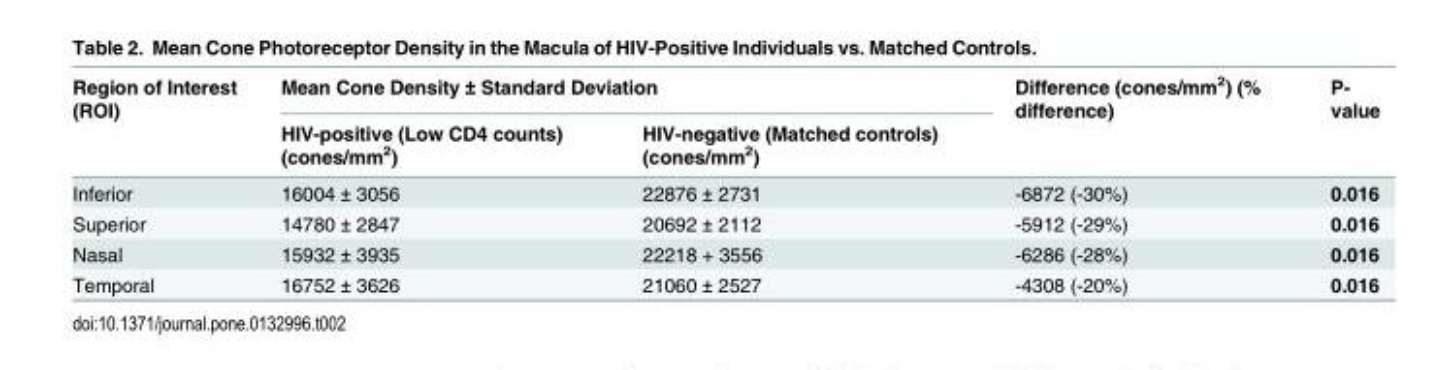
<table><thead><tr><td rowspan="2">Region of Interest (ROI)</td><td colspan="2">Mean Cone Density ± Standard Deviation</td><td rowspan="2">Difference (cones/mm<sup>2</sup>) (% difference)</td><td rowspan="2">P- value</td></tr><tr><td>HIV-positive (Low CD4 counts) (cones/mm<sup>2</sup>)</td><td>HIV-negative (Matched controls) (cones/mm<sup>2</sup>)</td></tr></thead><tbody><tr><td>Inferior</td><td>16004 ± 3056</td><td>22876 ± 2731</td><td>-6872 (-30%)</td><td>0.016</td></tr><tr><td>Superior</td><td>14780 ± 2847</td><td>20692 ± 2112</td><td>-5912 (-29%)</td><td>0.016</td></tr><tr><td>Nasal</td><td>15932 ± 3935</td><td>22218 + 3556</td><td>-6286 (-28%)</td><td>0.016</td></tr><tr><td>Temporal</td><td>16752 ± 3626</td><td>21060 ± 2527</td><td>-4308 (-20%)</td><td>0.016</td></tr></tbody></table>